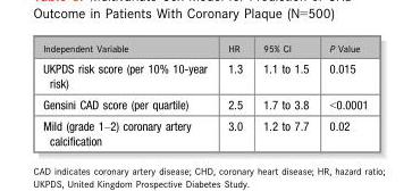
<table><thead><tr><td>Independent Variable</td><td>HR</td><td>95% CI</td><td>P Value</td></tr></thead><tbody><tr><td>UKPDS risk score (per 10% 10-year risk)</td><td>1.3</td><td>1.1 to 1.5</td><td>0.015</td></tr><tr><td>Gensini CAD score (per quartile)</td><td>2.5</td><td>1.7 to 3.8</td><td>&lt;0.0001</td></tr><tr><td>Mild (grade 1–2) coronary artery calcification</td><td>3.0</td><td>1.2 to 7.7</td><td>0.02</td></tr></tbody></table>